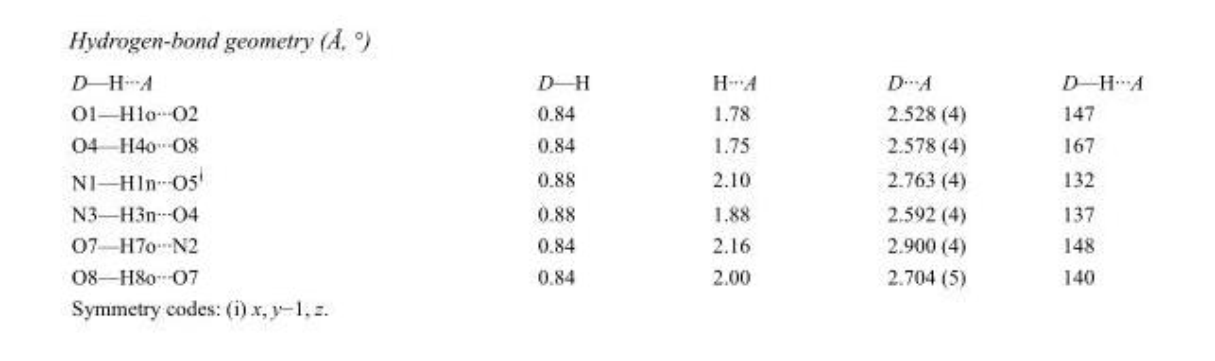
<table><tbody><tr><td>D—H···A</td><td>D—H</td><td>H···A</td><td>D···A</td><td>D—H···A</td></tr><tr><td>O1—H1o···O2</td><td>0.84</td><td>1.78</td><td>2.528 (4)</td><td>147</td></tr><tr><td>O4—H4o···O8</td><td>0.84</td><td>1.75</td><td>2.578 (4)</td><td>167</td></tr><tr><td>N1—H1n···O5<sup>i</sup></td><td>0.88</td><td>2.10</td><td>2.763 (4)</td><td>132</td></tr><tr><td>N3—H3n···O4</td><td>0.88</td><td>1.88</td><td>2.592 (4)</td><td>137</td></tr><tr><td>O7—H7o···N2</td><td>0.84</td><td>2.16</td><td>2.900 (4)</td><td>148</td></tr><tr><td>O8—H8o···O7</td><td>0.84</td><td>2.00</td><td>2.704 (5)</td><td>140</td></tr></tbody></table>